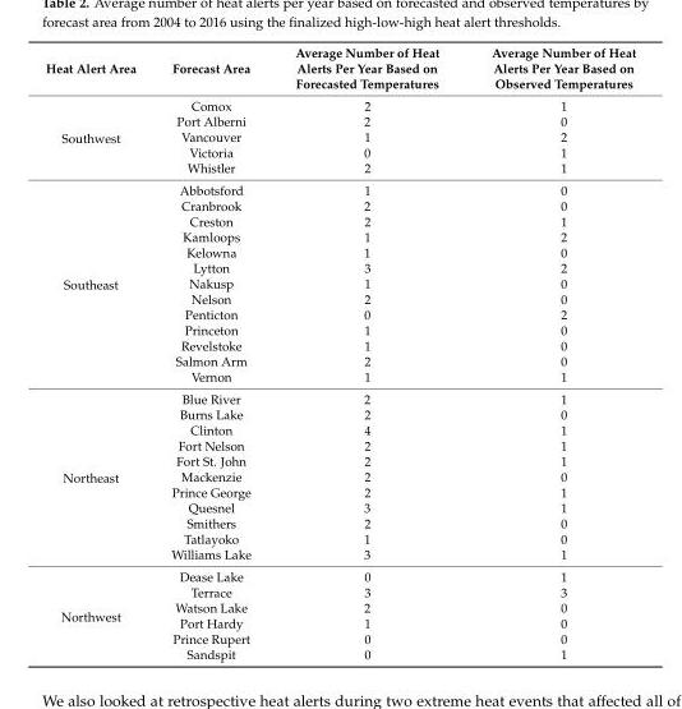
<table><thead><tr><td>Heat Alert Area</td><td>Forecast Area</td><td>Average Number of Heat Alerts Per Year Based on Forecasted Temperatures</td><td>Average Number of Heat Alerts Per Year Based on Observed Temperatures</td></tr></thead><tbody><tr><td rowspan="5">Southwest</td><td>Comox</td><td>2</td><td>1</td></tr><tr><td>Port Alberni</td><td>2</td><td>0</td></tr><tr><td>Vancouver</td><td>1</td><td>2</td></tr><tr><td>Victoria</td><td>0</td><td>1</td></tr><tr><td>Whistler</td><td>2</td><td>1</td></tr><tr><td rowspan="13">Southeast</td><td>Abbotsford</td><td>1</td><td>0</td></tr><tr><td>Cranbrook</td><td>2</td><td>0</td></tr><tr><td>Creston</td><td>2</td><td>1</td></tr><tr><td>Kamloops</td><td>1</td><td>2</td></tr><tr><td>Kelowna</td><td>1</td><td>0</td></tr><tr><td>Lytton</td><td>3</td><td>2</td></tr><tr><td>Nakusp</td><td>1</td><td>0</td></tr><tr><td>Nelson</td><td>2</td><td>0</td></tr><tr><td>Penticton</td><td>0</td><td>2</td></tr><tr><td>Princeton</td><td>1</td><td>0</td></tr><tr><td>Revelstoke</td><td>1</td><td>0</td></tr><tr><td>Salmon Arm</td><td>2</td><td>0</td></tr><tr><td>Vernon</td><td>1</td><td>1</td></tr><tr><td rowspan="11">Northeast</td><td>Blue River</td><td>2</td><td>1</td></tr><tr><td>Burns Lake</td><td>2</td><td>0</td></tr><tr><td>Clinton</td><td>4</td><td>1</td></tr><tr><td>Fort Nelson</td><td>2</td><td>1</td></tr><tr><td>Fort St. John</td><td>2</td><td>1</td></tr><tr><td>Mackenzie</td><td>2</td><td>0</td></tr><tr><td>Prince George</td><td>2</td><td>1</td></tr><tr><td>Quesnel</td><td>3</td><td>1</td></tr><tr><td>Smithers</td><td>2</td><td>0</td></tr><tr><td>Tatlayoko</td><td>1</td><td>0</td></tr><tr><td>Williams Lake</td><td>3</td><td>1</td></tr><tr><td rowspan="6">Northwest</td><td>Dease Lake</td><td>0</td><td>1</td></tr><tr><td>Terrace</td><td>3</td><td>3</td></tr><tr><td>Watson Lake</td><td>2</td><td>0</td></tr><tr><td>Port Hardy</td><td>1</td><td>0</td></tr><tr><td>Prince Rupert</td><td>0</td><td>0</td></tr><tr><td>Sandspit</td><td>0</td><td>1</td></tr></tbody></table>